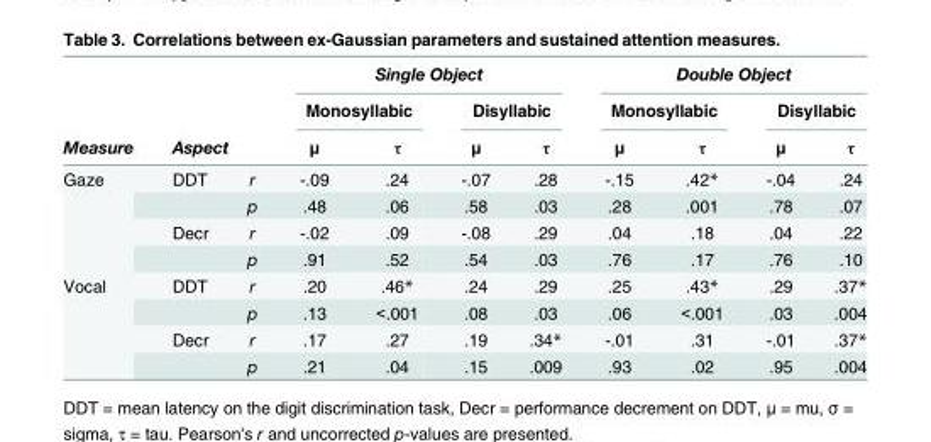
<table><thead><tr><td rowspan="3">Measure</td><td rowspan="2"></td><td rowspan="2"></td><td colspan="4">Single Object</td><td colspan="4">Double Object</td></tr><tr><td colspan="2">Monosyllabic</td><td colspan="2">Disyllabic</td><td colspan="2">Monosyllabic</td><td colspan="2">Disyllabic</td></tr><tr><td colspan="2">Aspect</td><td>μ</td><td>τ</td><td>μ</td><td>τ</td><td>μ</td><td>τ</td><td>μ</td><td>τ</td></tr></thead><tbody><tr><td rowspan="4">Gaze</td><td>DDT</td><td>r</td><td>-.09</td><td>.24</td><td>-.07</td><td>.28</td><td>-.15</td><td>.42*</td><td>-.04</td><td>.24</td></tr><tr><td></td><td>p</td><td>.48</td><td>.06</td><td>.58</td><td>.03</td><td>.28</td><td>.001</td><td>.78</td><td>.07</td></tr><tr><td>Decr</td><td>r</td><td>-.02</td><td>.09</td><td>-.08</td><td>.29</td><td>.04</td><td>.18</td><td>.04</td><td>.22</td></tr><tr><td></td><td>p</td><td>.91</td><td>.52</td><td>.54</td><td>.03</td><td>.76</td><td>.17</td><td>.76</td><td>.10</td></tr><tr><td rowspan="4">Vocal</td><td>DDT</td><td>r</td><td>.20</td><td>.46*</td><td>.24</td><td>.29</td><td>.25</td><td>.43*</td><td>.29</td><td>.37*</td></tr><tr><td></td><td>p</td><td>.13</td><td>&lt;.001</td><td>.08</td><td>.03</td><td>.06</td><td>&lt;.001</td><td>.03</td><td>.004</td></tr><tr><td>Decr</td><td>r</td><td>.17</td><td>.27</td><td>.19</td><td>.34*</td><td>-.01</td><td>.31</td><td>-.01</td><td>.37*</td></tr><tr><td></td><td>p</td><td>.21</td><td>.04</td><td>.15</td><td>.009</td><td>.93</td><td>.02</td><td>.95</td><td>.004</td></tr></tbody></table>